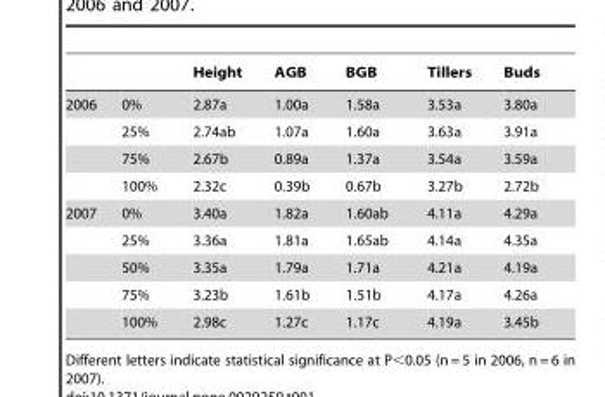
<table><thead><tr><td></td><td></td><td>Height</td><td>AGB</td><td>BGB</td><td>Tillers</td><td>Buds</td></tr></thead><tbody><tr><td rowspan="4">2006</td><td>0%</td><td>2.87a</td><td>1.00a</td><td>1.58a</td><td>3.53a</td><td>3.80a</td></tr><tr><td>25%</td><td>2.74ab</td><td>1.07a</td><td>1.60a</td><td>3.63a</td><td>3.91a</td></tr><tr><td>75%</td><td>2.67b</td><td>0.89a</td><td>1.37a</td><td>3.54a</td><td>3.59a</td></tr><tr><td>100%</td><td>2.32c</td><td>0.39b</td><td>0.67b</td><td>3.27b</td><td>2.72b</td></tr><tr><td rowspan="5">2007</td><td>0%</td><td>3.40a</td><td>1.82a</td><td>1.60ab</td><td>4.11a</td><td>4.29a</td></tr><tr><td>25%</td><td>3.36a</td><td>1.81a</td><td>1.65ab</td><td>4.14a</td><td>4.35a</td></tr><tr><td>50%</td><td>3.35a</td><td>1.79a</td><td>1.71a</td><td>4.21a</td><td>4.19a</td></tr><tr><td>75%</td><td>3.23b</td><td>1.61b</td><td>1.51b</td><td>4.17a</td><td>4.26a</td></tr><tr><td>100%</td><td>2.98c</td><td>1.27c</td><td>1.17c</td><td>4.19a</td><td>3.45b</td></tr></tbody></table>